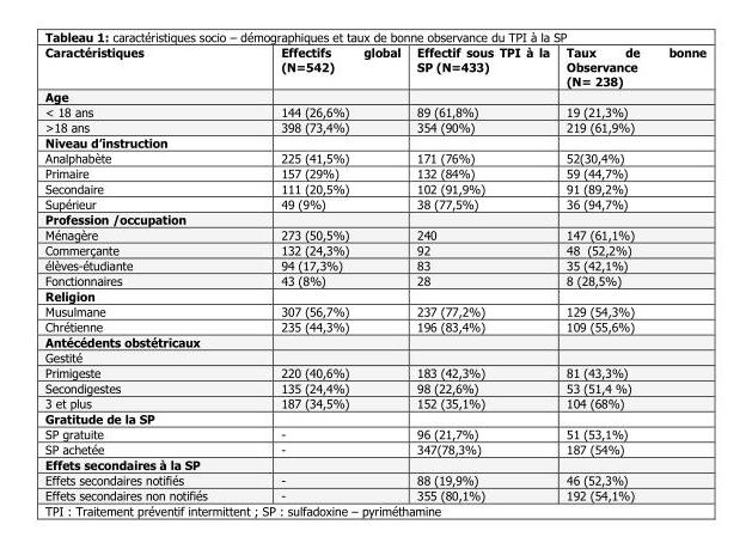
<table><thead><tr><td>Caractéristiques</td><td>Effectifs global (N=542)</td><td>Effectif sous TPI à la SP (N=433)</td><td>Taux de bonne Observance (N= 238)</td></tr></thead><tbody><tr><td colspan="4">Age</td></tr><tr><td>&lt; 18 ans</td><td>144 (26,6%)</td><td>89 (61,8%)</td><td>19 (21,3%)</td></tr><tr><td>&gt;18 ans</td><td>398 (73,4%)</td><td>354 (90%)</td><td>219 (61,9%)</td></tr><tr><td colspan="4">Niveau d’instruction</td></tr><tr><td>Analphabète</td><td>225 (41,5%)</td><td>171 (76%)</td><td>52(30,4%)</td></tr><tr><td>Primaire</td><td>157 (29%)</td><td>132 (84%)</td><td>59 (44,7%)</td></tr><tr><td>Secondaire</td><td>111 (20,5%)</td><td>102 (91,9%)</td><td>91 (89,2%)</td></tr><tr><td>Supérieur</td><td>49 (9%)</td><td>38 (77,5%)</td><td>36 (94,7%)</td></tr><tr><td colspan="4">Profession /occupation</td></tr><tr><td>Ménagère</td><td>273 (50,5%)</td><td>240</td><td>147 (61,1%)</td></tr><tr><td>Commerçante</td><td>132 (24,3%)</td><td>92</td><td>48 (52,2%)</td></tr><tr><td>élèves-étudiante</td><td>94 (17,3%)</td><td>83</td><td>35 (42,1%)</td></tr><tr><td>Fonctionnaires</td><td>43 (8%)</td><td>28</td><td>8 (28,5%)</td></tr><tr><td colspan="4">Religion</td></tr><tr><td>Musulmane</td><td>307 (56,7%)</td><td>237 (77,2%)</td><td>129 (54,3%)</td></tr><tr><td>Chrétienne</td><td>235 (44,3%)</td><td>196 (83,4%)</td><td>109 (55,6%)</td></tr><tr><td colspan="4">Antécédents obstétricaux</td></tr><tr><td colspan="4">Gestité</td></tr><tr><td>Primigeste</td><td>220 (40,6%)</td><td>183 (42,3%)</td><td>81 (43,3%)</td></tr><tr><td>Secondigestes</td><td>135 (24,4%)</td><td>98 (22,6%)</td><td>53 (51,4 %)</td></tr><tr><td>3 et plus</td><td>187 (34,5%)</td><td>152 (35,1%)</td><td>104 (68%)</td></tr><tr><td colspan="4">Gratitude de la SP</td></tr><tr><td>SP gratuite</td><td>-</td><td>96 (21,7%)</td><td>51 (53,1%)</td></tr><tr><td>SP achetée</td><td>-</td><td>347(78,3%)</td><td>187 (54%)</td></tr><tr><td colspan="4">Effets secondaires à la SP</td></tr><tr><td>Effets secondaires notifiés</td><td>-</td><td>88 (19,9%)</td><td>46 (52,3%)</td></tr><tr><td>Effets secondaires non notifiés</td><td>-</td><td>355 (80,1%)</td><td>192 (54,1%)</td></tr></tbody></table>